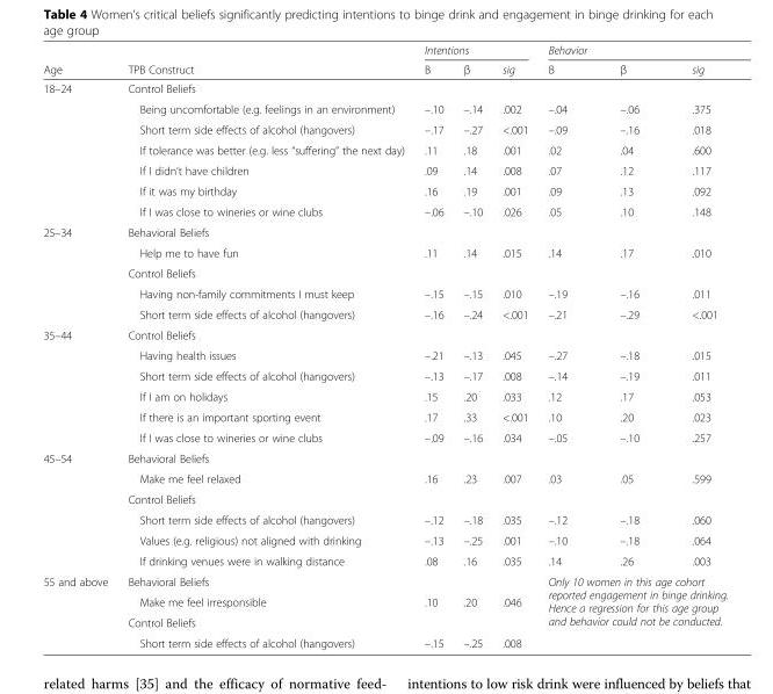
<table><thead><tr><td rowspan="2">Age</td><td rowspan="2">TPB Construct</td><td colspan="3">Intentions</td><td colspan="3">Behavior</td></tr><tr><td>B</td><td>β</td><td>sig</td><td>B</td><td>β</td><td>sig</td></tr></thead><tbody><tr><td rowspan="7">18–24</td><td>Control Beliefs</td><td></td><td></td><td></td><td></td><td></td><td></td></tr><tr><td>Being uncomfortable (e.g. feelings in an environment)</td><td>–.10</td><td>–.14</td><td>.002</td><td>–.04</td><td>–.06</td><td>.375</td></tr><tr><td>Short term side effects of alcohol (hangovers)</td><td>–.17</td><td>–.27</td><td>&lt;.001</td><td>–.09</td><td>–.16</td><td>.018</td></tr><tr><td>If tolerance was better (e.g. less “suffering” the next day)</td><td>.11</td><td>.18</td><td>.001</td><td>.02</td><td>.04</td><td>.600</td></tr><tr><td>If I didn’t have children</td><td>.09</td><td>.14</td><td>.008</td><td>.07</td><td>.12</td><td>.117</td></tr><tr><td>If it was my birthday</td><td>.16</td><td>.19</td><td>.001</td><td>.09</td><td>.13</td><td>.092</td></tr><tr><td>If I was close to wineries or wine clubs</td><td>–.06</td><td>–.10</td><td>.026</td><td>.05</td><td>.10</td><td>.148</td></tr><tr><td rowspan="5">25–34</td><td>Behavioral Beliefs</td><td></td><td></td><td></td><td></td><td></td><td></td></tr><tr><td>Help me to have fun</td><td>.11</td><td>.14</td><td>.015</td><td>.14</td><td>.17</td><td>.010</td></tr><tr><td>Control Beliefs</td><td></td><td></td><td></td><td></td><td></td><td></td></tr><tr><td>Having non-family commitments I must keep</td><td>–.15</td><td>–.15</td><td>.010</td><td>–.19</td><td>–.16</td><td>.011</td></tr><tr><td>Short term side effects of alcohol (hangovers)</td><td>–.16</td><td>–.24</td><td>&lt;.001</td><td>–.21</td><td>–.29</td><td>&lt;.001</td></tr><tr><td rowspan="6">35–44</td><td>Control Beliefs</td><td></td><td></td><td></td><td></td><td></td><td></td></tr><tr><td>Having health issues</td><td>–.21</td><td>–.13</td><td>.045</td><td>–.27</td><td>–.18</td><td>.015</td></tr><tr><td>Short term side effects of alcohol (hangovers)</td><td>–.13</td><td>–.17</td><td>.008</td><td>–.14</td><td>–.19</td><td>.011</td></tr><tr><td>If I am on holidays</td><td>.15</td><td>.20</td><td>.033</td><td>.12</td><td>.17</td><td>.053</td></tr><tr><td>If there is an important sporting event</td><td>.17</td><td>.33</td><td>&lt;.001</td><td>.10</td><td>.20</td><td>.023</td></tr><tr><td>If I was close to wineries or wine clubs</td><td>–.09</td><td>–.16</td><td>.034</td><td>–.05</td><td>–.10</td><td>.257</td></tr><tr><td rowspan="6">45–54</td><td>Behavioral Beliefs</td><td></td><td></td><td></td><td></td><td></td><td></td></tr><tr><td>Make me feel relaxed</td><td>.16</td><td>.23</td><td>.007</td><td>.03</td><td>.05</td><td>.599</td></tr><tr><td>Control Beliefs</td><td></td><td></td><td></td><td></td><td></td><td></td></tr><tr><td>Short term side effects of alcohol (hangovers)</td><td>–.12</td><td>–.18</td><td>.035</td><td>–.12</td><td>–.18</td><td>.060</td></tr><tr><td>Values (e.g. religious) not aligned with drinking</td><td>–.13</td><td>–.25</td><td>.001</td><td>–.10</td><td>–.18</td><td>.064</td></tr><tr><td>If drinking venues were in walking distance</td><td>.08</td><td>.16</td><td>.035</td><td>.14</td><td>.26</td><td>.003</td></tr><tr><td rowspan="4">55 and above</td><td>Behavioral Beliefs</td><td></td><td></td><td></td><td rowspan="4" colspan="3">Only 10 women in this age cohort reported engagement in binge drinking. Hence a regression for this age group and behavior could not be conducted.</td></tr><tr><td>Make me feel irresponsible</td><td>.10</td><td>.20</td><td>.046</td></tr><tr><td>Control Beliefs</td><td></td><td></td><td></td></tr><tr><td>Short term side effects of alcohol (hangovers)</td><td>–.15</td><td>–.25</td><td>.008</td></tr></tbody></table>